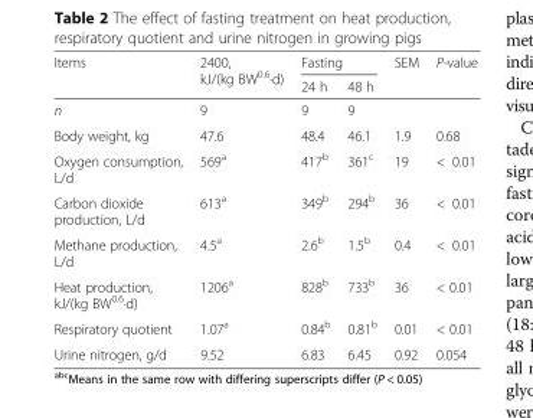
<table><thead><tr><td rowspan="2">Items</td><td rowspan="2">2400, kJ/(kg BW<sup>0.6</sup>·d)</td><td colspan="2">Fasting</td><td rowspan="2">SEM</td><td rowspan="2">P-value</td></tr><tr><td>24 h</td><td>48 h</td></tr></thead><tbody><tr><td>n</td><td>9</td><td>9</td><td>9</td><td></td><td></td></tr><tr><td>Body weight, kg</td><td>47.6</td><td>48.4</td><td>46.1</td><td>1.9</td><td>0.68</td></tr><tr><td>Oxygen consumption, L/d</td><td>569<sup>a</sup></td><td>417<sup>b</sup></td><td>361<sup>c</sup></td><td>19</td><td>&lt; 0.01</td></tr><tr><td>Carbon dioxide production, L/d</td><td>613<sup>a</sup></td><td>349<sup>b</sup></td><td>294<sup>b</sup></td><td>36</td><td>&lt; 0.01</td></tr><tr><td>Methane production, L/d</td><td>4.5<sup>a</sup></td><td>2.6<sup>b</sup></td><td>1.5<sup>b</sup></td><td>0.4</td><td>&lt; 0.01</td></tr><tr><td>Heat production, kJ/(kg BW<sup>0.6</sup>·d)</td><td>1206<sup>a</sup></td><td>828<sup>b</sup></td><td>733<sup>b</sup></td><td>36</td><td>&lt; 0.01</td></tr><tr><td>Respiratory quotient</td><td>1.07<sup>a</sup></td><td>0.84<sup>b</sup></td><td>0.81<sup>b</sup></td><td>0.01</td><td>&lt; 0.01</td></tr><tr><td>Urine nitrogen, g/d</td><td>9.52</td><td>6.83</td><td>6.45</td><td>0.92</td><td>0.054</td></tr></tbody></table>